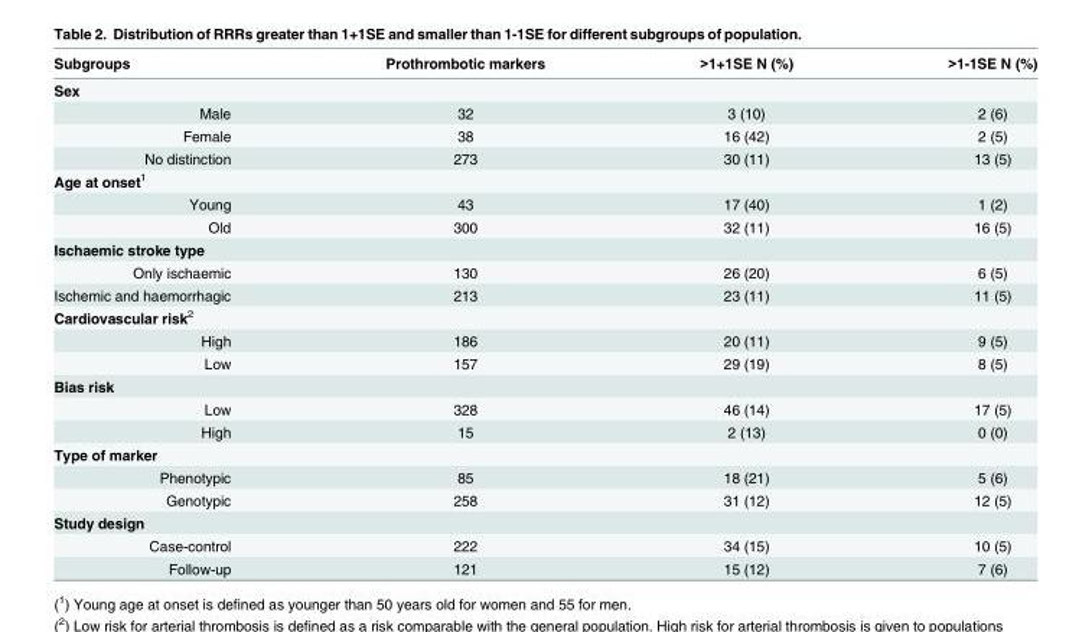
<table><thead><tr><td>Subgroups</td><td>Prothrombotic markers</td><td>&gt;1+1SE N (%)</td><td>&gt;1-1SE N (%)</td></tr></thead><tbody><tr><td colspan="4">Sex</td></tr><tr><td>Male</td><td>32</td><td>3 (10)</td><td>2 (6)</td></tr><tr><td>Female</td><td>38</td><td>16 (42)</td><td>2 (5)</td></tr><tr><td>No distinction</td><td>273</td><td>30 (11)</td><td>13 (5)</td></tr><tr><td colspan="4">Age at onset<sup>1</sup></td></tr><tr><td>Young</td><td>43</td><td>17 (40)</td><td>1 (2)</td></tr><tr><td>Old</td><td>300</td><td>32 (11)</td><td>16 (5)</td></tr><tr><td colspan="4">Ischaemic stroke type</td></tr><tr><td>Only ischaemic</td><td>130</td><td>26 (20)</td><td>6 (5)</td></tr><tr><td>Ischemic and haemorrhagic</td><td>213</td><td>23 (11)</td><td>11 (5)</td></tr><tr><td colspan="4">Cardiovascular risk<sup>2</sup></td></tr><tr><td>High</td><td>186</td><td>20 (11)</td><td>9 (5)</td></tr><tr><td>Low</td><td>157</td><td>29 (19)</td><td>8 (5)</td></tr><tr><td colspan="4">Bias risk</td></tr><tr><td>Low</td><td>328</td><td>46 (14)</td><td>17 (5)</td></tr><tr><td>High</td><td>15</td><td>2 (13)</td><td>0 (0)</td></tr><tr><td colspan="4">Type of marker</td></tr><tr><td>Phenotypic</td><td>85</td><td>18 (21)</td><td>5 (6)</td></tr><tr><td>Genotypic</td><td>258</td><td>31 (12)</td><td>12 (5)</td></tr><tr><td colspan="4">Study design</td></tr><tr><td>Case-control</td><td>222</td><td>34 (15)</td><td>10 (5)</td></tr><tr><td>Follow-up</td><td>121</td><td>15 (12)</td><td>7 (6)</td></tr></tbody></table>